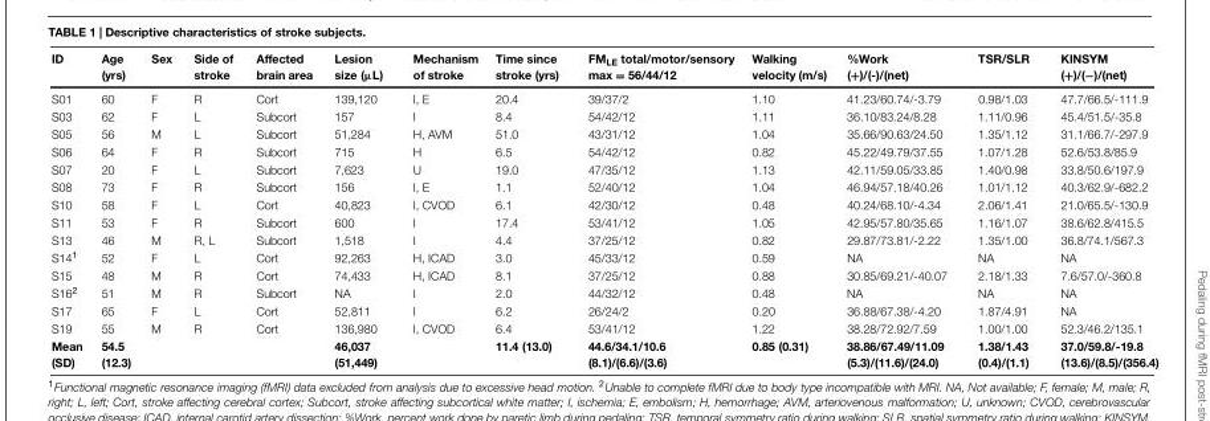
<table><thead><tr><td>ID</td><td>Age (yrs)</td><td>Sex</td><td>Side of stroke</td><td>Affected brain area</td><td>Lesion size (µL)</td><td>Mechanism of stroke</td><td>Time since stroke (yrs)</td><td>FM<sub>LE</sub> total/motor/sensory max = 56/44/12</td><td>Walking velocity (m/s)</td><td>%Work (+)/(-)/(net)</td><td>TSR/SLR</td><td>KINSYM (+)/(−)/(net)</td></tr></thead><tbody><tr><td>S01</td><td>60</td><td>F</td><td>R</td><td>Cort</td><td>139,120</td><td>I, E</td><td>20.4</td><td>39/37/2</td><td>1.10</td><td>41.23/60.74/-3.79</td><td>0.98/1.03</td><td>47.7/66.5/-111.9</td></tr><tr><td>S03</td><td>62</td><td>F</td><td>L</td><td>Subcort</td><td>157</td><td>I</td><td>8.4</td><td>54/42/12</td><td>1.11</td><td>36.10/83.24/8.28</td><td>1.11/0.96</td><td>45.4/51.5/-35.8</td></tr><tr><td>S05</td><td>56</td><td>M</td><td>L</td><td>Subcort</td><td>51,284</td><td>H, AVM</td><td>51.0</td><td>43/31/12</td><td>1.04</td><td>35.66/90.63/24.50</td><td>1.35/1.12</td><td>31.1/66.7/-297.9</td></tr><tr><td>S06</td><td>64</td><td>F</td><td>R</td><td>Subcort</td><td>715</td><td>H</td><td>6.5</td><td>54/42/12</td><td>0.82</td><td>45.22/49.79/37.55</td><td>1.07/1.28</td><td>52.6/53.8/85.9</td></tr><tr><td>S07</td><td>20</td><td>F</td><td>L</td><td>Subcort</td><td>7,623</td><td>U</td><td>19.0</td><td>47/35/12</td><td>1.13</td><td>42.11/59.05/33.85</td><td>1.40/0.98</td><td>33.8/50.6/197.9</td></tr><tr><td>S08</td><td>73</td><td>F</td><td>R</td><td>Subcort</td><td>156</td><td>I, E</td><td>1.1</td><td>52/40/12</td><td>1.04</td><td>46.94/57.18/40.26</td><td>1.01/1.12</td><td>40.3/62.9/-682.2</td></tr><tr><td>S10</td><td>58</td><td>F</td><td>L</td><td>Cort</td><td>40,823</td><td>I, CVOD</td><td>6.1</td><td>42/30/12</td><td>0.48</td><td>40.24/68.10/-4.34</td><td>2.06/1.41</td><td>21.0/65.5/-130.9</td></tr><tr><td>S11</td><td>53</td><td>F</td><td>R</td><td>Subcort</td><td>600</td><td>I</td><td>17.4</td><td>53/41/12</td><td>1.05</td><td>42.95/57.80/35.65</td><td>1.16/1.07</td><td>38.6/62.8/415.5</td></tr><tr><td>S13</td><td>46</td><td>M</td><td>R, L</td><td>Subcort</td><td>1,518</td><td>I</td><td>4.4</td><td>37/25/12</td><td>0.82</td><td>29.87/73.81/-2.22</td><td>1.35/1.00</td><td>36.8/74.1/567.3</td></tr><tr><td>S14<sup>1</sup></td><td>52</td><td>F</td><td>L</td><td>Cort</td><td>92,263</td><td>H, ICAD</td><td>3.0</td><td>45/33/12</td><td>0.59</td><td>NA</td><td>NA</td><td>NA</td></tr><tr><td>S15</td><td>48</td><td>M</td><td>R</td><td>Cort</td><td>74,433</td><td>H, ICAD</td><td>8.1</td><td>37/25/12</td><td>0.88</td><td>30.85/69.21/-40.07</td><td>2.18/1.33</td><td>7.6/57.0/-360.8</td></tr><tr><td>S16<sup>2</sup></td><td>51</td><td>M</td><td>R</td><td>Subcort</td><td>NA</td><td>I</td><td>2.0</td><td>44/32/12</td><td>0.48</td><td>NA</td><td>NA</td><td>NA</td></tr><tr><td>S17</td><td>65</td><td>F</td><td>L</td><td>Cort</td><td>52,811</td><td>I</td><td>6.2</td><td>26/24/2</td><td>0.20</td><td>36.88/67.38/-4.20</td><td>1.87/4.91</td><td>NA</td></tr><tr><td>S19</td><td>55</td><td>M</td><td>R</td><td>Cort</td><td>136,980</td><td>I, CVOD</td><td>6.4</td><td>53/41/12</td><td>1.22</td><td>38.28/72.92/7.59</td><td>1.00/1.00</td><td>52.3/46.2/135.1</td></tr><tr><td>Mean (SD)</td><td>54.5 (12.3)</td><td></td><td></td><td></td><td>46,037 (51,449)</td><td></td><td>11.4 (13.0)</td><td>44.6/34.1/10.6 (8.1)/(6.6)/(3.6)</td><td>0.85 (0.31)</td><td>38.86/67.49/11.09 (5.3)/(11.6)/(24.0)</td><td>1.38/1.43 (0.4)/(1.1)</td><td>37.0/59.8/-19.8 (13.6)/(8.5)/(356.4)</td></tr></tbody></table>